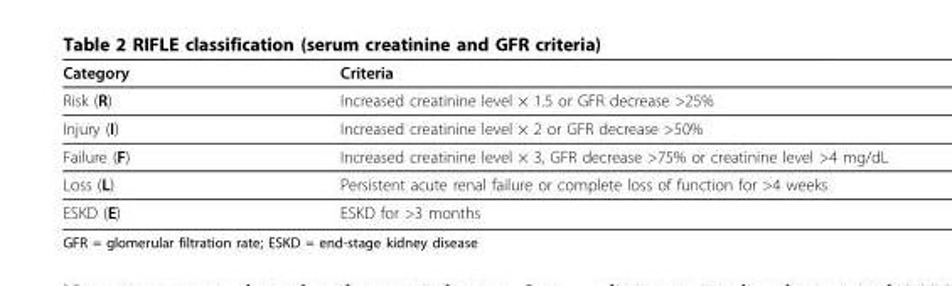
<table><thead><tr><td>Category</td><td>Criteria</td></tr></thead><tbody><tr><td>Risk (R)</td><td>Increased creatinine level × 1.5 or GFR decrease &gt;25%</td></tr><tr><td>Injury (I)</td><td>Increased creatinine level × 2 or GFR decrease &gt;50%</td></tr><tr><td>Failure (F)</td><td>Increased creatinine level × 3, GFR decrease &gt;75% or creatinine level &gt;4 mg/dL</td></tr><tr><td>Loss (L)</td><td>Persistent acute renal failure or complete loss of function for &gt;4 weeks</td></tr><tr><td>ESKD (E)</td><td>ESKD for &gt;3 months</td></tr></tbody></table>